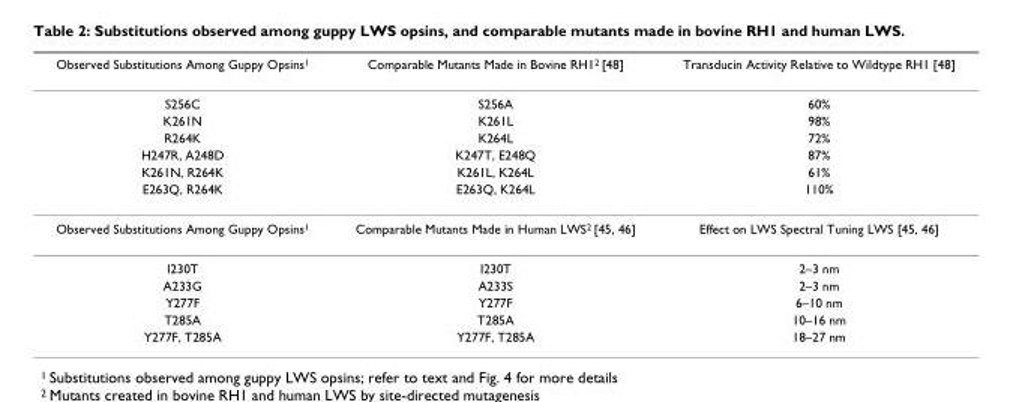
<table><thead><tr><td>Observed Substitutions Among Guppy Opsins1</td><td>Comparable Mutants Made in Bovine RH12 [48]</td><td>Transducin Activity Relative to Wildtype RH1 [48]</td></tr></thead><tbody><tr><td>S256C</td><td>S256A</td><td>60%</td></tr><tr><td>K261N</td><td>K261L</td><td>98%</td></tr><tr><td>R264K</td><td>K264L</td><td>72%</td></tr><tr><td>H247R, A248D</td><td>K247T, E248Q</td><td>87%</td></tr><tr><td>K261N, R264K</td><td>K261L, K264L</td><td>61%</td></tr><tr><td>E263Q, R264K</td><td>E263Q, K264L</td><td>110%</td></tr><tr><td>Observed Substitutions Among Guppy Opsins1</td><td>Comparable Mutants Made in Human LWS2 [45, 46]</td><td>Effect on LWS Spectral Tuning LWS [45, 46]</td></tr><tr><td>I230T</td><td>I230T</td><td>2–3 nm</td></tr><tr><td>A233G</td><td>A233S</td><td>2–3 nm</td></tr><tr><td>Y277F</td><td>Y277F</td><td>6–10 nm</td></tr><tr><td>T285A</td><td>T285A</td><td>10–16 nm</td></tr><tr><td>Y277F, T285A</td><td>Y277F, T285A</td><td>18–27 nm</td></tr></tbody></table>